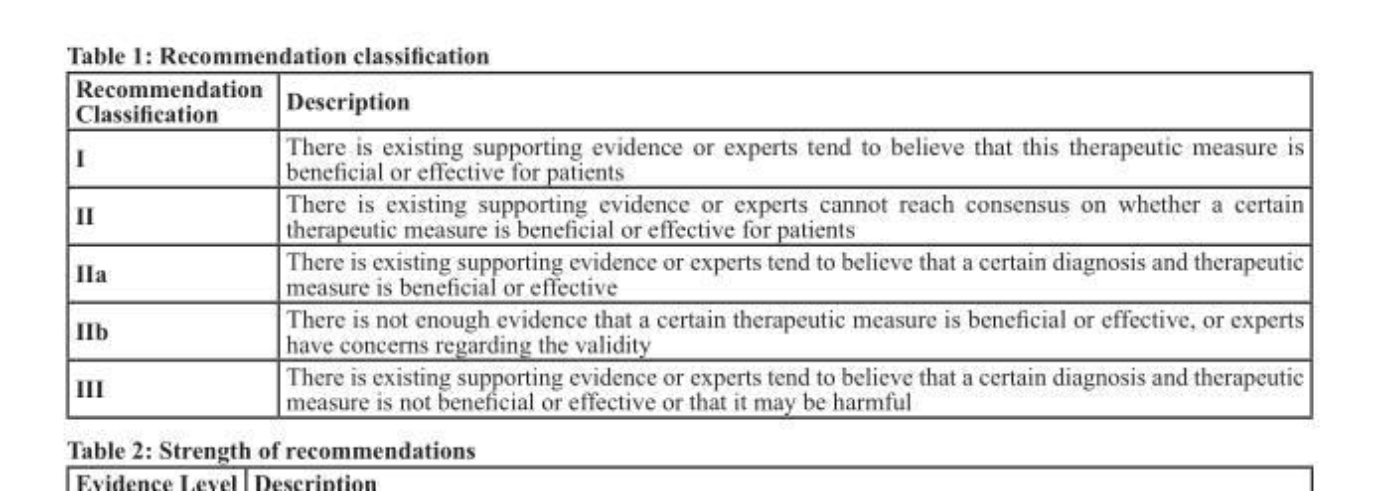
<table><thead><tr><td>Recommendation Classification</td><td>Description</td></tr></thead><tbody><tr><td>I</td><td>There is existing supporting evidence or experts tend to believe that this therapeutic measure is beneficial or effective for patients</td></tr><tr><td>II</td><td>There is existing supporting evidence or experts cannot reach consensus on whether a certain therapeutic measure is beneficial or effective for patients</td></tr><tr><td>IIa</td><td>There is existing supporting evidence or experts tend to believe that a certain diagnosis and therapeutic measure is beneficial or effective</td></tr><tr><td>IIb</td><td>There is not enough evidence that a certain therapeutic measure is beneficial or effective, or experts have concerns regarding the validity</td></tr><tr><td>III</td><td>There is existing supporting evidence or experts tend to believe that a certain diagnosis and therapeutic measure is not beneficial or effective or that it may be harmful</td></tr></tbody></table>